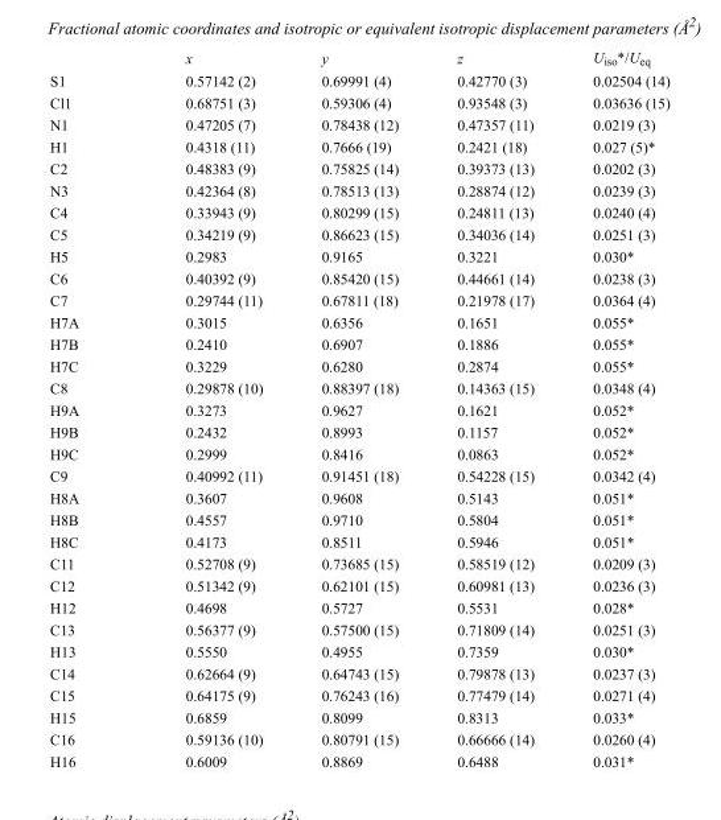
<table><thead><tr><td></td><td>x</td><td>y</td><td>z</td><td>U<sub>iso</sub>*/U<sub>eq</sub></td></tr></thead><tbody><tr><td>S1</td><td>0.57142 (2)</td><td>0.69991 (4)</td><td>0.42770 (3)</td><td>0.02504 (14)</td></tr><tr><td>Cl1</td><td>0.68751 (3)</td><td>0.59306 (4)</td><td>0.93548 (3)</td><td>0.03636 (15)</td></tr><tr><td>N1</td><td>0.47205 (7)</td><td>0.78438 (12)</td><td>0.47357 (11)</td><td>0.0219 (3)</td></tr><tr><td>H1</td><td>0.4318 (11)</td><td>0.7666 (19)</td><td>0.2421 (18)</td><td>0.027 (5)*</td></tr><tr><td>C2</td><td>0.48383 (9)</td><td>0.75825 (14)</td><td>0.39373 (13)</td><td>0.0202 (3)</td></tr><tr><td>N3</td><td>0.42364 (8)</td><td>0.78513 (13)</td><td>0.28874 (12)</td><td>0.0239 (3)</td></tr><tr><td>C4</td><td>0.33943 (9)</td><td>0.80299 (15)</td><td>0.24811 (13)</td><td>0.0240 (4)</td></tr><tr><td>C5</td><td>0.34219 (9)</td><td>0.86623 (15)</td><td>0.34036 (14)</td><td>0.0251 (3)</td></tr><tr><td>H5</td><td>0.2983</td><td>0.9165</td><td>0.3221</td><td>0.030*</td></tr><tr><td>C6</td><td>0.40392 (9)</td><td>0.85420 (15)</td><td>0.44661 (14)</td><td>0.0238 (3)</td></tr><tr><td>C7</td><td>0.29744 (11)</td><td>0.67811 (18)</td><td>0.21978 (17)</td><td>0.0364 (4)</td></tr><tr><td>H7A</td><td>0.3015</td><td>0.6356</td><td>0.1651</td><td>0.055*</td></tr><tr><td>H7B</td><td>0.2410</td><td>0.6907</td><td>0.1886</td><td>0.055*</td></tr><tr><td>H7C</td><td>0.3229</td><td>0.6280</td><td>0.2874</td><td>0.055*</td></tr><tr><td>C8</td><td>0.29878 (10)</td><td>0.88397 (18)</td><td>0.14363 (15)</td><td>0.0348 (4)</td></tr><tr><td>H9A</td><td>0.3273</td><td>0.9627</td><td>0.1621</td><td>0.052*</td></tr><tr><td>H9B</td><td>0.2432</td><td>0.8993</td><td>0.1157</td><td>0.052*</td></tr><tr><td>H9C</td><td>0.2999</td><td>0.8416</td><td>0.0863</td><td>0.052*</td></tr><tr><td>C9</td><td>0.40992 (11)</td><td>0.91451 (18)</td><td>0.54228 (15)</td><td>0.0342 (4)</td></tr><tr><td>H8A</td><td>0.3607</td><td>0.9608</td><td>0.5143</td><td>0.051*</td></tr><tr><td>H8B</td><td>0.4557</td><td>0.9710</td><td>0.5804</td><td>0.051*</td></tr><tr><td>H8C</td><td>0.4173</td><td>0.8511</td><td>0.5946</td><td>0.051*</td></tr><tr><td>C11</td><td>0.52708 (9)</td><td>0.73685 (15)</td><td>0.58519 (12)</td><td>0.0209 (3)</td></tr><tr><td>C12</td><td>0.51342 (9)</td><td>0.62101 (15)</td><td>0.60981 (13)</td><td>0.0236 (3)</td></tr><tr><td>H12</td><td>0.4698</td><td>0.5727</td><td>0.5531</td><td>0.028*</td></tr><tr><td>C13</td><td>0.56377 (9)</td><td>0.57500 (15)</td><td>0.71809 (14)</td><td>0.0251 (3)</td></tr><tr><td>H13</td><td>0.5550</td><td>0.4955</td><td>0.7359</td><td>0.030*</td></tr><tr><td>C14</td><td>0.62664 (9)</td><td>0.64743 (15)</td><td>0.79878 (13)</td><td>0.0237 (3)</td></tr><tr><td>C15</td><td>0.64175 (9)</td><td>0.76243 (16)</td><td>0.77479 (14)</td><td>0.0271 (4)</td></tr><tr><td>H15</td><td>0.6859</td><td>0.8099</td><td>0.8313</td><td>0.033*</td></tr><tr><td>C16</td><td>0.59136 (10)</td><td>0.80791 (15)</td><td>0.66666 (14)</td><td>0.0260 (4)</td></tr><tr><td>H16</td><td>0.6009</td><td>0.8869</td><td>0.6488</td><td>0.031*</td></tr></tbody></table>